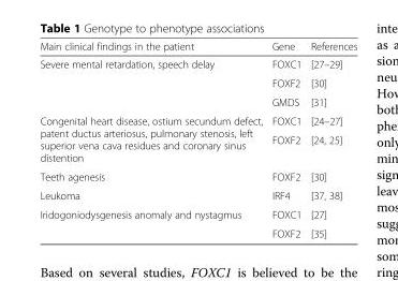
<table><thead><tr><td>Main clinical findings in the patient</td><td>Gene</td><td>References</td></tr></thead><tbody><tr><td rowspan="3">Severe mental retardation, speech delay</td><td>FOXC1</td><td>[27–29]</td></tr><tr><td>FOXF2</td><td>[30]</td></tr><tr><td>GMDS</td><td>[31]</td></tr><tr><td rowspan="2">Congenital heart disease, ostium secundum defect, patent ductus arteriosus, pulmonary stenosis, left superior vena cava residues and coronary sinus distention</td><td>FOXC1</td><td>[24–27]</td></tr><tr><td>FOXF2</td><td>[24, 25]</td></tr><tr><td>Teeth agenesis</td><td>FOXF2</td><td>[30]</td></tr><tr><td>Leukoma</td><td>IRF4</td><td>[37, 38]</td></tr><tr><td rowspan="2">Iridogoniodysgenesis anomaly and nystagmus</td><td>FOXC1</td><td>[27]</td></tr><tr><td>FOXF2</td><td>[35]</td></tr></tbody></table>